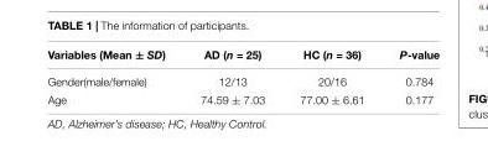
<table><thead><tr><td>Variables (Mean ± SD)</td><td>AD (n = 25)</td><td>HC (n = 36)</td><td>P-value</td></tr></thead><tbody><tr><td>Gender(male/female)</td><td>12/13</td><td>20/16</td><td>0.784</td></tr><tr><td>Age</td><td>74.59 ± 7.03</td><td>77.00 ± 6.61</td><td>0.177</td></tr></tbody></table>